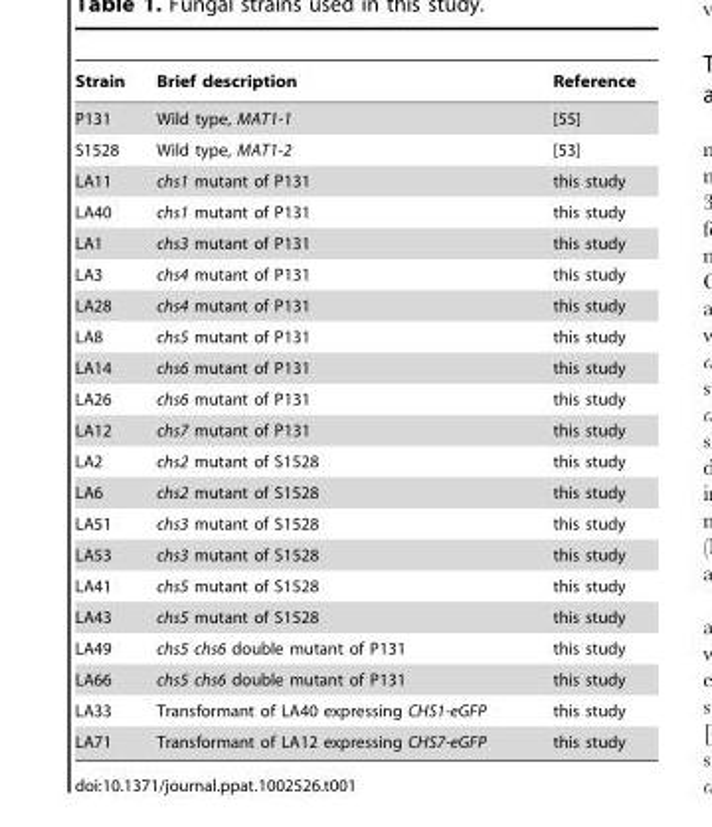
<table><thead><tr><td>Strain</td><td>Brief description</td><td>Reference</td></tr></thead><tbody><tr><td>P131</td><td>Wild type, MAT1-1</td><td>[55]</td></tr><tr><td>S1528</td><td>Wild type, MAT1-2</td><td>[53]</td></tr><tr><td>LA11</td><td>chs1 mutant of P131</td><td>this study</td></tr><tr><td>LA40</td><td>chs1 mutant of P131</td><td>this study</td></tr><tr><td>LA1</td><td>chs3 mutant of P131</td><td>this study</td></tr><tr><td>LA3</td><td>chs4 mutant of P131</td><td>this study</td></tr><tr><td>LA28</td><td>chs4 mutant of P131</td><td>this study</td></tr><tr><td>LA8</td><td>chs5 mutant of P131</td><td>this study</td></tr><tr><td>LA14</td><td>chs6 mutant of P131</td><td>this study</td></tr><tr><td>LA26</td><td>chs6 mutant of P131</td><td>this study</td></tr><tr><td>LA12</td><td>chs7 mutant of P131</td><td>this study</td></tr><tr><td>LA2</td><td>chs2 mutant of S1528</td><td>this study</td></tr><tr><td>LA6</td><td>chs2 mutant of S1528</td><td>this study</td></tr><tr><td>LA51</td><td>chs3 mutant of S1528</td><td>this study</td></tr><tr><td>LA53</td><td>chs3 mutant of S1528</td><td>this study</td></tr><tr><td>LA41</td><td>chs5 mutant of S1528</td><td>this study</td></tr><tr><td>LA43</td><td>chs5 mutant of S1528</td><td>this study</td></tr><tr><td>LA49</td><td>chs5 chs6 double mutant of P131</td><td>this study</td></tr><tr><td>LA66</td><td>chs5 chs6 double mutant of P131</td><td>this study</td></tr><tr><td>LA33</td><td>Transformant of LA40 expressing CHS1-eGFP</td><td>this study</td></tr><tr><td>LA71</td><td>Transformant of LA12 expressing CHS7-eGFP</td><td>this study</td></tr></tbody></table>